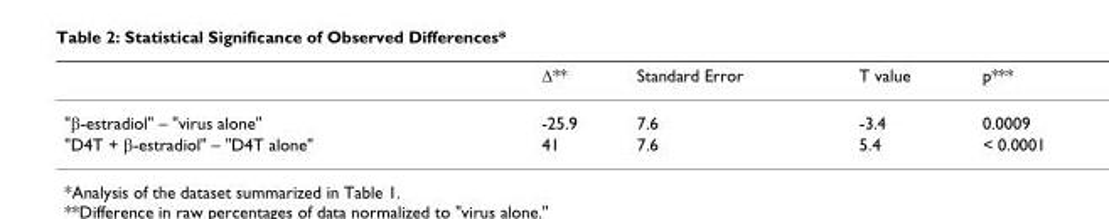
<table><thead><tr><td></td><td>Δ**</td><td>Standard Error</td><td>T value</td><td>p***</td></tr></thead><tbody><tr><td>&quot;β-estradiol&quot; – &quot;virus alone&quot;</td><td>-25.9</td><td>7.6</td><td>-3.4</td><td>0.0009</td></tr><tr><td>&quot;D4T + β-estradiol&quot; – &quot;D4T alone&quot;</td><td>41</td><td>7.6</td><td>5.4</td><td>&lt; 0.0001</td></tr></tbody></table>